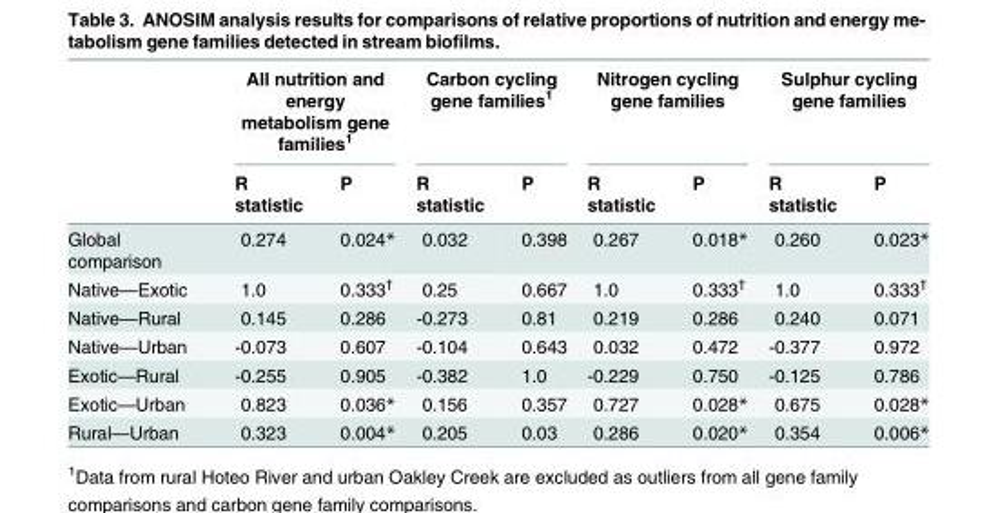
<table><thead><tr><td rowspan="2"></td><td colspan="2">All nutrition and energy metabolism gene families<sup>1</sup></td><td colspan="2">Carbon cycling gene families<sup>1</sup></td><td colspan="2">Nitrogen cycling gene families</td><td colspan="2">Sulphur cycling gene families</td></tr><tr><td>R statistic</td><td>P</td><td>R statistic</td><td>P</td><td>R statistic</td><td>P</td><td>R statistic</td><td>P</td></tr></thead><tbody><tr><td>Global comparison</td><td>0.274</td><td>0.024*</td><td>0.032</td><td>0.398</td><td>0.267</td><td>0.018*</td><td>0.260</td><td>0.023*</td></tr><tr><td>Native—Exotic</td><td>1.0</td><td>0.333<sup>†</sup></td><td>0.25</td><td>0.667</td><td>1.0</td><td>0.333<sup>†</sup></td><td>1.0</td><td>0.333<sup>†</sup></td></tr><tr><td>Native—Rural</td><td>0.145</td><td>0.286</td><td>-0.273</td><td>0.81</td><td>0.219</td><td>0.286</td><td>0.240</td><td>0.071</td></tr><tr><td>Native—Urban</td><td>-0.073</td><td>0.607</td><td>-0.104</td><td>0.643</td><td>0.032</td><td>0.472</td><td>-0.377</td><td>0.972</td></tr><tr><td>Exotic—Rural</td><td>-0.255</td><td>0.905</td><td>-0.382</td><td>1.0</td><td>-0.229</td><td>0.750</td><td>-0.125</td><td>0.786</td></tr><tr><td>Exotic—Urban</td><td>0.823</td><td>0.036*</td><td>0.156</td><td>0.357</td><td>0.727</td><td>0.028*</td><td>0.675</td><td>0.028*</td></tr><tr><td>Rural—Urban</td><td>0.323</td><td>0.004*</td><td>0.205</td><td>0.03</td><td>0.286</td><td>0.020*</td><td>0.354</td><td>0.006*</td></tr></tbody></table>